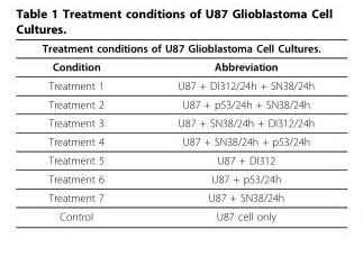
<table><thead><tr><td colspan="2">Treatment conditions of U87 Glioblastoma Cell Cultures.</td></tr><tr><td>Condition</td><td>Abbreviation</td></tr></thead><tbody><tr><td>Treatment 1</td><td>U87 + DI312/24h + SN38/24h</td></tr><tr><td>Treatment 2</td><td>U87 + p53/24h + SN38/24h</td></tr><tr><td>Treatment 3</td><td>U87 + SN38/24h + DI312/24h</td></tr><tr><td>Treatment 4</td><td>U87 + SN38/24h + p53/24h</td></tr><tr><td>Treatment 5</td><td>U87 + DI312</td></tr><tr><td>Treatment 6</td><td>U87 + p53/24h</td></tr><tr><td>Treatment 7</td><td>U87 + SN38/24h</td></tr><tr><td>Control</td><td>U87 cell only</td></tr></tbody></table>